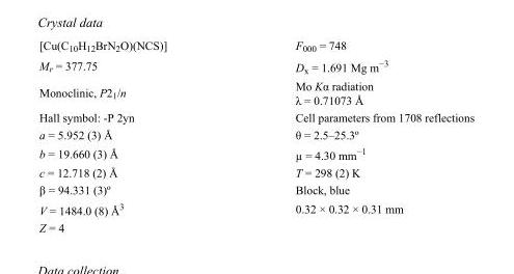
<table><tbody><tr><td>[Cu(C<sub>10</sub>H<sub>12</sub>BrN<sub>2</sub>O)(NCS)]</td><td>F<sub>000</sub> = 748</td></tr><tr><td>M<sub>r</sub> = 377.75</td><td>D<sub>x</sub> = 1.691 Mg m<sup>−3</sup></td></tr><tr><td>Monoclinic, P2<sub>1</sub>/n</td><td>Mo Kα radiation λ = 0.71073 Å</td></tr><tr><td>Hall symbol: -P 2yn</td><td>Cell parameters from 1708 reflections</td></tr><tr><td>a = 5.952 (3) Å</td><td>θ = 2.5–25.3º</td></tr><tr><td>b = 19.660 (3) Å</td><td>µ = 4.30 mm<sup>−1</sup></td></tr><tr><td>c = 12.718 (2) Å</td><td>T = 298 (2) K</td></tr><tr><td>β = 94.331 (3)º</td><td>Block, blue</td></tr><tr><td>V = 1484.0 (8) Å<sup>3</sup></td><td>0.32 × 0.32 × 0.31 mm</td></tr><tr><td>Z = 4</td><td></td></tr></tbody></table>